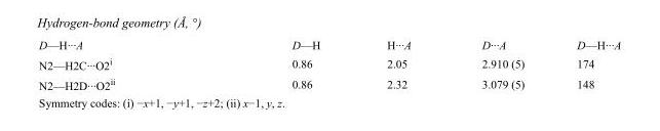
<table><tbody><tr><td>D—H···A</td><td>D—H</td><td>H···A</td><td>D···A</td><td>D—H···A</td></tr><tr><td>N2—H2C···O2<sup>i</sup></td><td>0.86</td><td>2.05</td><td>2.910 (5)</td><td>174</td></tr><tr><td>N2—H2D···O2<sup>ii</sup></td><td>0.86</td><td>2.32</td><td>3.079 (5)</td><td>148</td></tr></tbody></table>